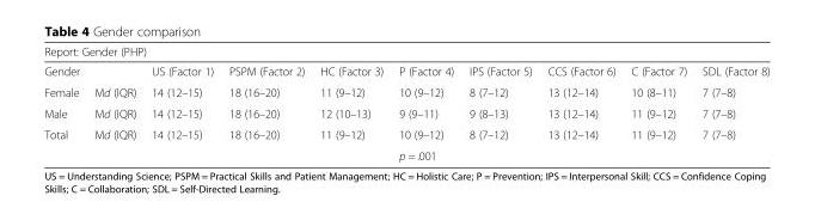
<table><thead><tr><td colspan="10">Report: Gender (PHP)</td></tr><tr><td colspan="2">Gender</td><td rowspan="2">US (Factor 1) 14 (12–15)</td><td rowspan="2">PSPM (Factor 2) 18 (16–20)</td><td rowspan="2">HC (Factor 3) 11 (9–12)</td><td rowspan="2">P (Factor 4) 10 (9–12)</td><td rowspan="2">IPS (Factor 5) 8 (7–12)</td><td rowspan="2">CCS (Factor 6) 13 (12–14)</td><td rowspan="2">C (Factor 7) 10 (8–11)</td><td rowspan="2">SDL (Factor 8) 7 (7–8)</td></tr><tr><td>Female</td><td>Md (IQR)</td></tr></thead><tbody><tr><td>Male</td><td>Md (IQR)</td><td>14 (12–15)</td><td>18 (16–20)</td><td>12 (10–13)</td><td>9 (9–11)</td><td>9 (8–13)</td><td>13 (12–14)</td><td>11 (9–12)</td><td>7 (7–8)</td></tr><tr><td rowspan="2">Total</td><td>Md (IQR)</td><td>14 (12–15)</td><td>18 (16–20)</td><td>11 (9–12)</td><td>10 (9–12)</td><td>8 (7–12)</td><td>13 (12–14)</td><td>11 (9–12)</td><td>7 (7–8)</td></tr><tr><td></td><td></td><td></td><td></td><td>p = .001</td><td></td><td></td><td></td><td></td></tr></tbody></table>